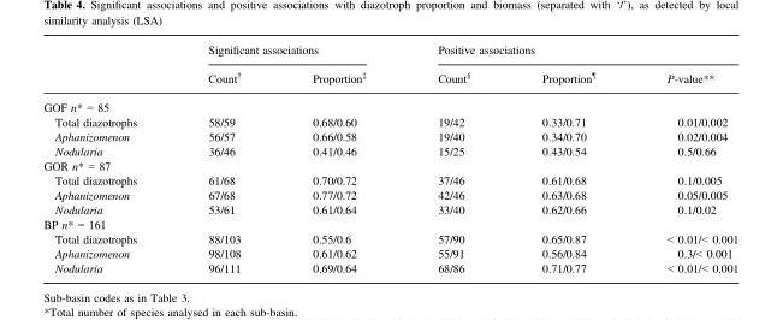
<table><thead><tr><td rowspan="2"></td><td colspan="2">Significant associations</td><td colspan="3">Positive associations</td></tr><tr><td>Count†</td><td>Proportion‡</td><td>Count§</td><td>Proportion¶</td><td>P-value**</td></tr></thead><tbody><tr><td colspan="6">GOF n* = 85</td></tr><tr><td>Total diazotrophs</td><td>58/59</td><td>0.68/0.60</td><td>19/42</td><td>0.33/0.71</td><td>0.01/0.002</td></tr><tr><td>Aphanizomenon</td><td>56/57</td><td>0.66/0.58</td><td>19/40</td><td>0.34/0.70</td><td>0.02/0.004</td></tr><tr><td>Nodularia</td><td>36/46</td><td>0.41/0.46</td><td>15/25</td><td>0.43/0.54</td><td>0.5/0.66</td></tr><tr><td colspan="6">GOR n* = 87</td></tr><tr><td>Total diazotrophs</td><td>61/68</td><td>0.70/0.72</td><td>37/46</td><td>0.61/0.68</td><td>0.1/0.005</td></tr><tr><td>Aphanizomenon</td><td>67/68</td><td>0.77/0.72</td><td>42/46</td><td>0.63/0.68</td><td>0.05/0.005</td></tr><tr><td>Nodularia</td><td>53/61</td><td>0.61/0.64</td><td>33/40</td><td>0.62/0.66</td><td>0.1/0.02</td></tr><tr><td colspan="6">BP n* = 161</td></tr><tr><td>Total diazotrophs</td><td>88/103</td><td>0.55/0.6</td><td>57/90</td><td>0.65/0.87</td><td>&lt; 0.01/&lt; 0.001</td></tr><tr><td>Aphanizomenon</td><td>98/108</td><td>0.61/0.62</td><td>55/91</td><td>0.56/0.84</td><td>0.3/&lt; 0.001</td></tr><tr><td>Nodularia</td><td>96/111</td><td>0.69/0.64</td><td>68/86</td><td>0.71/0.77</td><td>&lt; 0.01/&lt; 0.001</td></tr></tbody></table>